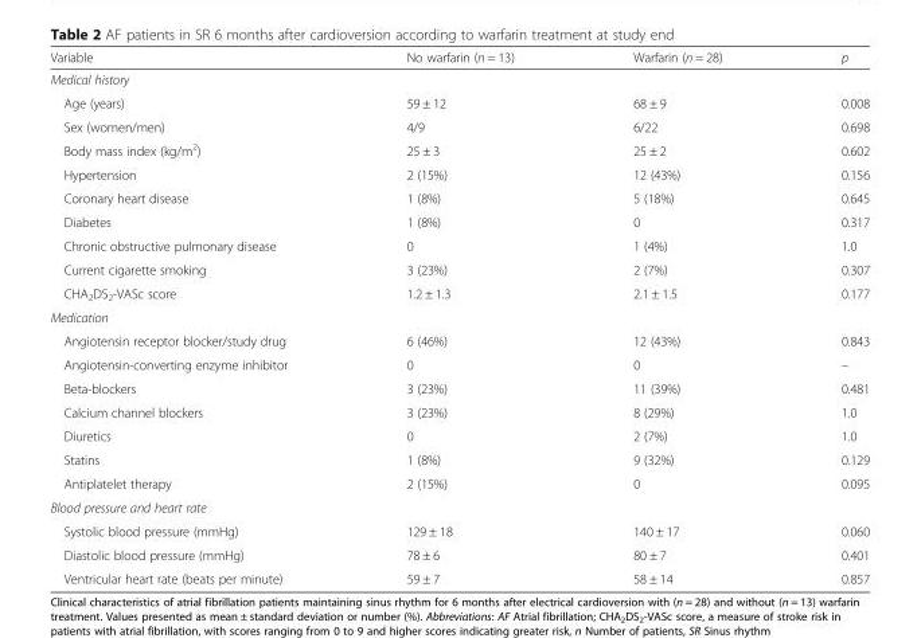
<table><thead><tr><td>Variable</td><td>No warfarin (n = 13)</td><td>Warfarin (n = 28)</td><td>p</td></tr></thead><tbody><tr><td colspan="4">Medical history</td></tr><tr><td>Age (years)</td><td>59 ± 12</td><td>68 ± 9</td><td>0.008</td></tr><tr><td>Sex (women/men)</td><td>4/9</td><td>6/22</td><td>0.698</td></tr><tr><td>Body mass index (kg/m<sup>2</sup>)</td><td>25 ± 3</td><td>25 ± 2</td><td>0.602</td></tr><tr><td>Hypertension</td><td>2 (15%)</td><td>12 (43%)</td><td>0.156</td></tr><tr><td>Coronary heart disease</td><td>1 (8%)</td><td>5 (18%)</td><td>0.645</td></tr><tr><td>Diabetes</td><td>1 (8%)</td><td>0</td><td>0.317</td></tr><tr><td>Chronic obstructive pulmonary disease</td><td>0</td><td>1 (4%)</td><td>1.0</td></tr><tr><td>Current cigarette smoking</td><td>3 (23%)</td><td>2 (7%)</td><td>0.307</td></tr><tr><td>CHA<sub>2</sub>DS<sub>2</sub>-VASc score</td><td>1.2 ± 1.3</td><td>2.1 ± 1.5</td><td>0.177</td></tr><tr><td colspan="4">Medication</td></tr><tr><td>Angiotensin receptor blocker/study drug</td><td>6 (46%)</td><td>12 (43%)</td><td>0.843</td></tr><tr><td>Angiotensin-converting enzyme inhibitor</td><td>0</td><td>0</td><td>–</td></tr><tr><td>Beta-blockers</td><td>3 (23%)</td><td>11 (39%)</td><td>0.481</td></tr><tr><td>Calcium channel blockers</td><td>3 (23%)</td><td>8 (29%)</td><td>1.0</td></tr><tr><td>Diuretics</td><td>0</td><td>2 (7%)</td><td>1.0</td></tr><tr><td>Statins</td><td>1 (8%)</td><td>9 (32%)</td><td>0.129</td></tr><tr><td>Antiplatelet therapy</td><td>2 (15%)</td><td>0</td><td>0.095</td></tr><tr><td colspan="4">Blood pressure and heart rate</td></tr><tr><td>Systolic blood pressure (mmHg)</td><td>129 ± 18</td><td>140 ± 17</td><td>0.060</td></tr><tr><td>Diastolic blood pressure (mmHg)</td><td>78 ± 6</td><td>80 ± 7</td><td>0.401</td></tr><tr><td>Ventricular heart rate (beats per minute)</td><td>59 ± 7</td><td>58 ± 14</td><td>0.857</td></tr></tbody></table>